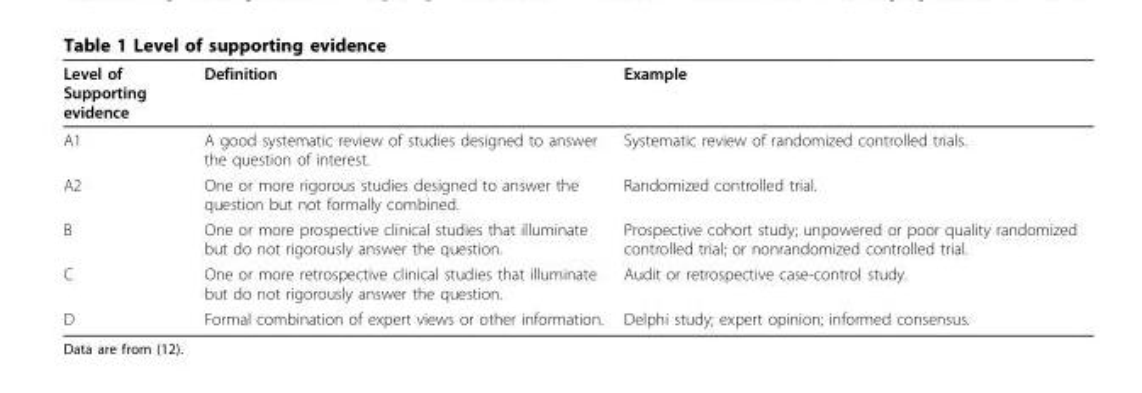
<table><thead><tr><td>Level of Supporting evidence</td><td>Definition</td><td>Example</td></tr></thead><tbody><tr><td>A1</td><td>A good systematic review of studies designed to answer the question of interest.</td><td>Systematic review of randomized controlled trials.</td></tr><tr><td>A2</td><td>One or more rigorous studies designed to answer the question but not formally combined.</td><td>Randomized controlled trial.</td></tr><tr><td>B</td><td>One or more prospective clinical studies that illuminate but do not rigorously answer the question.</td><td>Prospective cohort study; unpowered or poor quality randomized controlled trial; or nonrandomized controlled trial.</td></tr><tr><td>C</td><td>One or more retrospective clinical studies that illuminate but do not rigorously answer the question.</td><td>Audit or retrospective case-control study.</td></tr><tr><td>D</td><td>Formal combination of expert views or other information.</td><td>Delphi study; expert opinion; informed consensus.</td></tr></tbody></table>